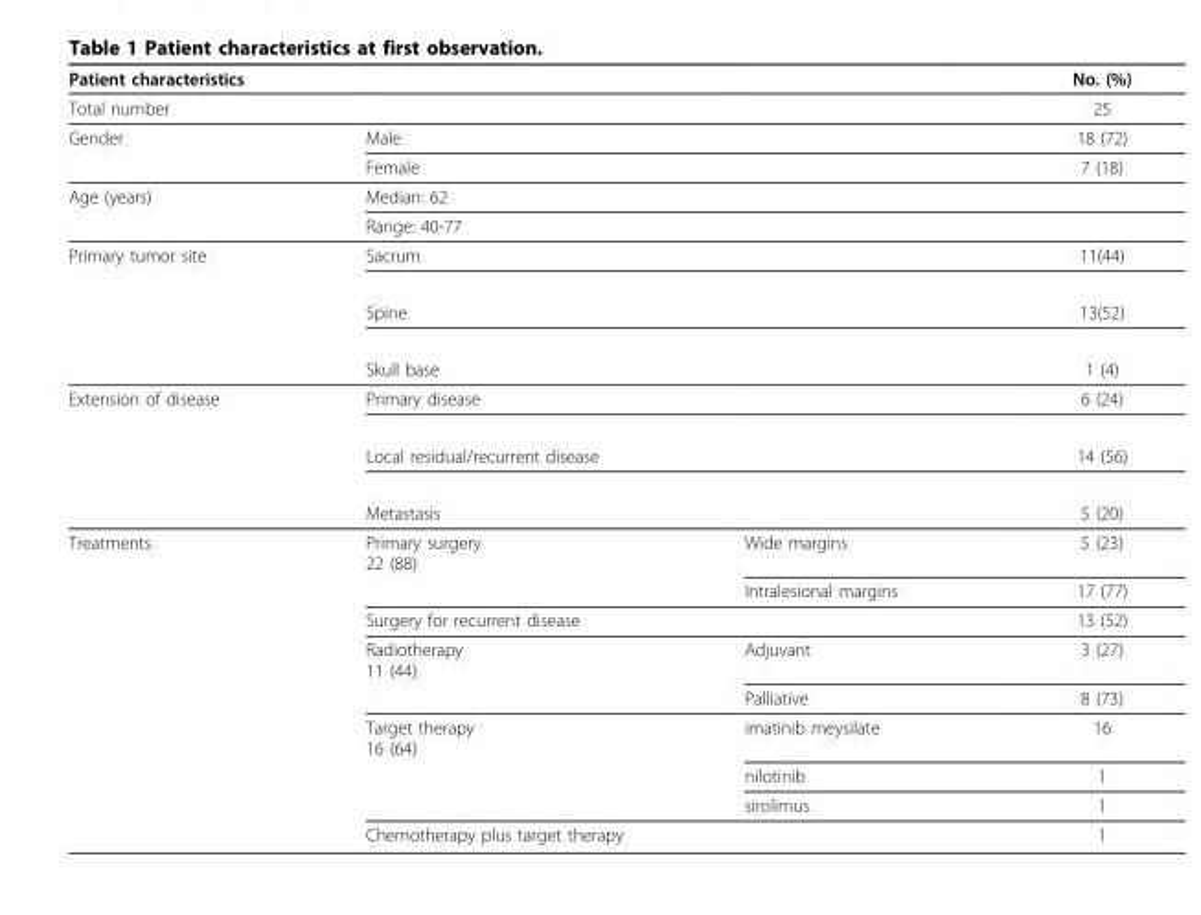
<table><thead><tr><td>Patient characteristics</td><td></td><td></td><td>No. (%)</td></tr></thead><tbody><tr><td>Total number</td><td></td><td></td><td>25</td></tr><tr><td rowspan="2">Gender</td><td>Male</td><td></td><td>18 (72)</td></tr><tr><td>Female</td><td></td><td>7 (18)</td></tr><tr><td rowspan="2">Age (years)</td><td>Median: 62</td><td></td><td></td></tr><tr><td>Range: 40-77</td><td></td><td></td></tr><tr><td rowspan="3">Primary tumor site</td><td>Sacrum</td><td></td><td>11(44)</td></tr><tr><td>Spine</td><td></td><td>13(52)</td></tr><tr><td>Skull base</td><td></td><td>1 (4)</td></tr><tr><td rowspan="3">Extension of disease</td><td>Primary disease</td><td></td><td>6 (24)</td></tr><tr><td colspan="2">Local residual/recurrent disease</td><td>14 (56)</td></tr><tr><td>Metastasis</td><td></td><td>5 (20)</td></tr><tr><td rowspan="9">Treatments</td><td>Primary surgery 22 (88)</td><td>Wide margins</td><td>5 (23)</td></tr><tr><td></td><td>Intralesional margins</td><td>17 (77)</td></tr><tr><td>Surgery for recurrent disease</td><td></td><td>13 (52)</td></tr><tr><td>Radiotherapy 11 (44)</td><td>Adjuvant</td><td>3 (27)</td></tr><tr><td></td><td>Palliative</td><td>8 (73)</td></tr><tr><td>Target therapy 16 (64)</td><td>imatinib meysilate</td><td>16</td></tr><tr><td></td><td>nilotinib</td><td>1</td></tr><tr><td></td><td>sirolimus</td><td>1</td></tr><tr><td>Chemotherapy plus target therapy</td><td></td><td>1</td></tr></tbody></table>